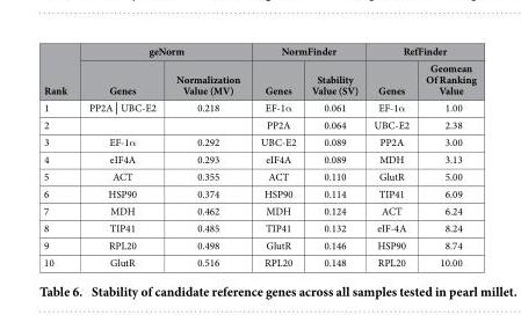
<table><thead><tr><td rowspan="2">Rank</td><td colspan="2">geNorm</td><td colspan="2">NormFinder</td><td colspan="2">RefFinder</td></tr><tr><td>Genes</td><td>Normalization Value (MV)</td><td>Genes</td><td>Stability Value (SV)</td><td>Genes</td><td>Geomean Of Ranking Value</td></tr></thead><tbody><tr><td>1</td><td>PP2A│ UBC-E2</td><td>0.218</td><td>EF-1α</td><td>0.061</td><td>EF-1α</td><td>1.00</td></tr><tr><td>2</td><td></td><td></td><td>PP2A</td><td>0.064</td><td>UBC-E2</td><td>2.38</td></tr><tr><td>3</td><td>EF-1α</td><td>0.292</td><td>UBC-E2</td><td>0.089</td><td>PP2A</td><td>3.00</td></tr><tr><td>4</td><td>eIF4A</td><td>0.293</td><td>eIF4A</td><td>0.089</td><td>MDH</td><td>3.13</td></tr><tr><td>5</td><td>ACT</td><td>0.355</td><td>ACT</td><td>0.110</td><td>GlutR</td><td>5.00</td></tr><tr><td>6</td><td>HSP90</td><td>0.374</td><td>HSP90</td><td>0.114</td><td>TIP41</td><td>6.09</td></tr><tr><td>7</td><td>MDH</td><td>0.462</td><td>MDH</td><td>0.124</td><td>ACT</td><td>6.24</td></tr><tr><td>8</td><td>TIP41</td><td>0.485</td><td>TIP41</td><td>0.132</td><td>eIF-4A</td><td>8.24</td></tr><tr><td>9</td><td>RPL20</td><td>0.498</td><td>GlutR</td><td>0.146</td><td>HSP90</td><td>8.74</td></tr><tr><td>10</td><td>GlutR</td><td>0.516</td><td>RPL20</td><td>0.148</td><td>RPL20</td><td>10.00</td></tr></tbody></table>